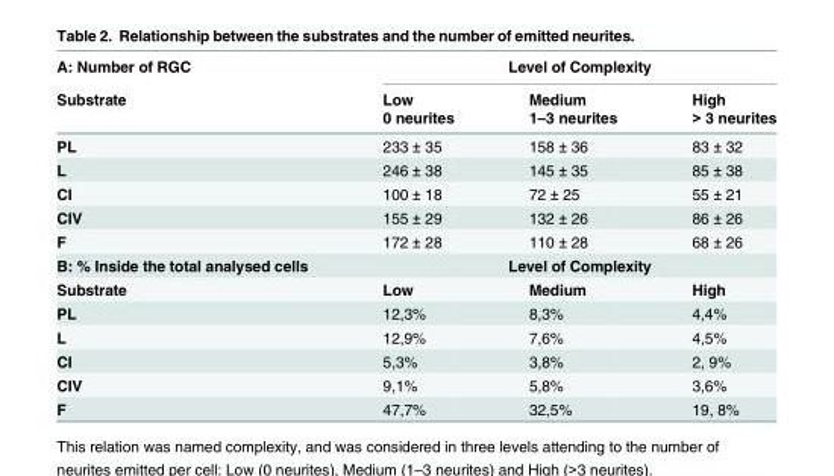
<table><thead><tr><td rowspan="3">A: Number of RGC Substrate</td><td colspan="3">Level of Complexity</td></tr><tr><td rowspan="2">Low 0 neurites</td><td rowspan="2">Medium 1–3 neurites</td><td rowspan="2">High &gt; 3 neurites</td></tr><tr></tr></thead><tbody><tr><td>PL</td><td>233 ± 35</td><td>158 ± 36</td><td>83 ± 32</td></tr><tr><td>L</td><td>246 ± 38</td><td>145 ± 35</td><td>85 ± 38</td></tr><tr><td>CI</td><td>100 ± 18</td><td>72 ± 25</td><td>55 ± 21</td></tr><tr><td>CIV</td><td>155 ± 29</td><td>132 ± 26</td><td>86 ± 26</td></tr><tr><td>F</td><td>172 ± 28</td><td>110 ± 28</td><td>68 ± 26</td></tr><tr><td>B: % Inside the total analysed cells</td><td colspan="3">Level of Complexity</td></tr><tr><td>Substrate</td><td>Low</td><td>Medium</td><td>High</td></tr><tr><td>PL</td><td>12,3%</td><td>8,3%</td><td>4,4%</td></tr><tr><td>L</td><td>12,9%</td><td>7,6%</td><td>4,5%</td></tr><tr><td>CI</td><td>5,3%</td><td>3,8%</td><td>2, 9%</td></tr><tr><td>CIV</td><td>9,1%</td><td>5,8%</td><td>3,6%</td></tr><tr><td>F</td><td>47,7%</td><td>32,5%</td><td>19, 8%</td></tr></tbody></table>